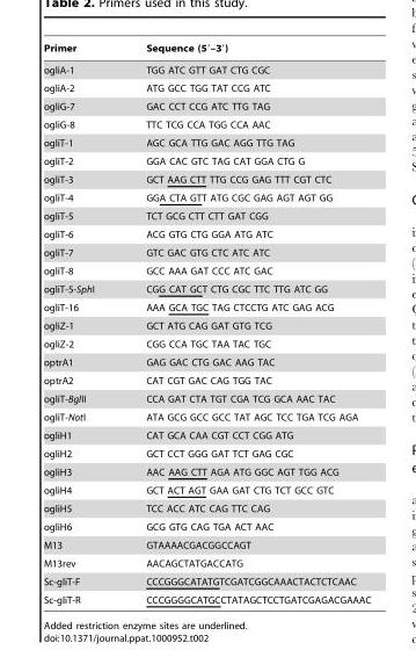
<table><thead><tr><td>Primer</td><td>Sequence (5′–3′)</td></tr></thead><tbody><tr><td>ogliA-1</td><td>TGG ATC GTT GAT CTG CGC</td></tr><tr><td>ogliA-2</td><td>ATG GCC TGG TAT CCG ATC</td></tr><tr><td>ogliG-7</td><td>GAC CCT CCG ATC TTG TAG</td></tr><tr><td>ogliG-8</td><td>TTC TCG CCA TGG CCA AAC</td></tr><tr><td>ogliT-1</td><td>AGC GCA TTG GAC AGG TTG TAG</td></tr><tr><td>ogliT-2</td><td>GGA CAC GTC TAG CAT GGA CTG G</td></tr><tr><td>ogliT-3</td><td>GCT AAG CTT TTG CCG GAG TTT CGT CTC</td></tr><tr><td>ogliT-4</td><td>GGA CTA GTT ATG CGC GAG AGT AGT GG</td></tr><tr><td>ogliT-5</td><td>TCT GCG CTT CTT GAT CGG</td></tr><tr><td>ogliT-6</td><td>ACG GTG CTG GGA ATG ATC</td></tr><tr><td>ogliT-7</td><td>GTC GAC GTG CTC ATC ATC</td></tr><tr><td>ogliT-8</td><td>GCC AAA GAT CCC ATC GAC</td></tr><tr><td>ogliT-5-SphI</td><td>CGG CAT GCT CTG CGC TTC TTG ATC GG</td></tr><tr><td>ogliT-16</td><td>AAA GCA TGC TAG CTCCTG ATC GAG ACG</td></tr><tr><td>ogliZ-1</td><td>GCT ATG CAG GAT GTG TCG</td></tr><tr><td>ogliZ-2</td><td>CGG CCA TGC TAA TAC TGC</td></tr><tr><td>optrA1</td><td>GAG GAC CTG GAC AAG TAC</td></tr><tr><td>optrA2</td><td>CAT CGT GAC CAG TGG TAC</td></tr><tr><td>ogliT-BglII</td><td>CCA GAT CTA TGT CGA TCG GCA AAC TAC</td></tr><tr><td>ogliT-NotI</td><td>ATA GCG GCC GCC TAT AGC TCC TGA TCG AGA</td></tr><tr><td>ogliH1</td><td>CAT GCA CAA CGT CCT CGG ATG</td></tr><tr><td>ogliH2</td><td>GCT CCT GGG GAT TCT GAG CGC</td></tr><tr><td>ogliH3</td><td>AAC AAG CTT AGA ATG GGC AGT TGG ACG</td></tr><tr><td>ogliH4</td><td>GCT ACT AGT GAA GAT CTG TCT GCC GTC</td></tr><tr><td>ogliH5</td><td>TCC ACC ATC CAG TTC CAG</td></tr><tr><td>ogliH6</td><td>GCG GTG CAG TGA ACT AAC</td></tr><tr><td>M13</td><td>GTAAAACGACGGCCAGT</td></tr><tr><td>M13rev</td><td>AACAGCTATGACCATG</td></tr><tr><td>Sc-gliT-F</td><td>CCCGGGCATATGTCGATCGGCAAACTACTCTCAAC</td></tr><tr><td>Sc-gliT-R</td><td>CCCGGGGCATGCCTATAGCTCCTGATCGAGACGAAAC</td></tr></tbody></table>